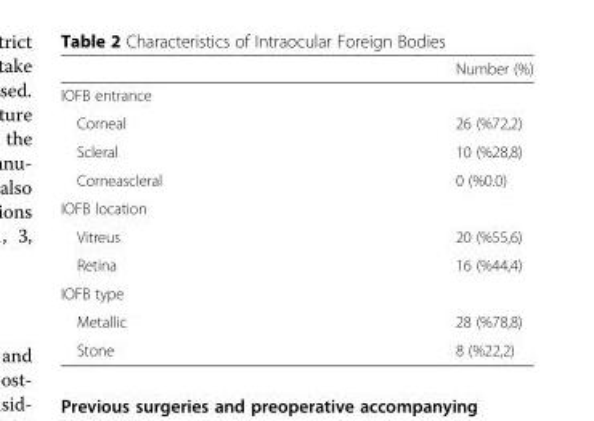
<table><thead><tr><td></td><td>Number (%)</td></tr></thead><tbody><tr><td colspan="2">IOFB entrance</td></tr><tr><td>Corneal</td><td>26 (%72,2)</td></tr><tr><td>Scleral</td><td>10 (%28,8)</td></tr><tr><td>Corneascleral</td><td>0 (%0.0)</td></tr><tr><td colspan="2">IOFB location</td></tr><tr><td>Vitreus</td><td>20 (%55,6)</td></tr><tr><td>Retina</td><td>16 (%44,4)</td></tr><tr><td colspan="2">IOFB type</td></tr><tr><td>Metallic</td><td>28 (%78,8)</td></tr><tr><td>Stone</td><td>8 (%22,2)</td></tr></tbody></table>